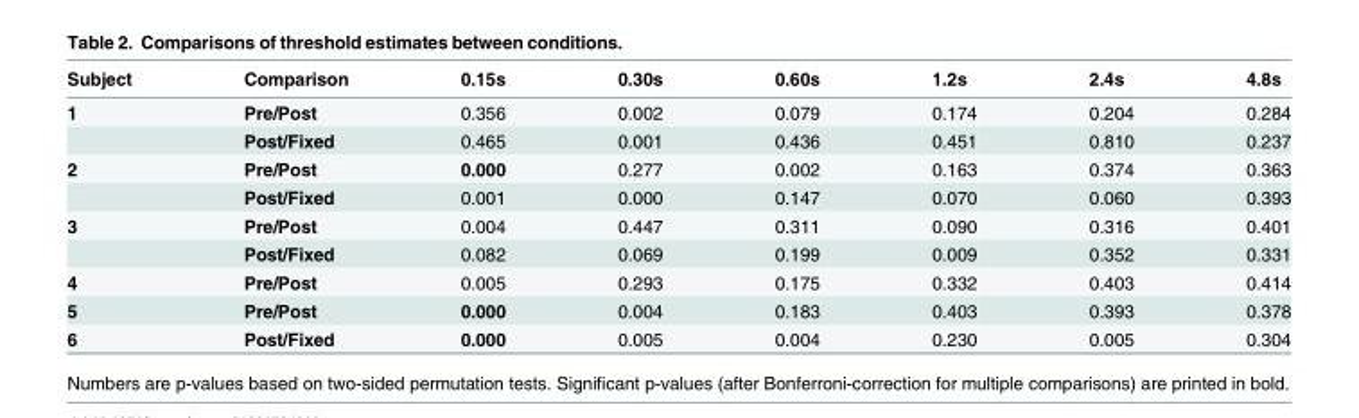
<table><thead><tr><td>Subject</td><td>Comparison</td><td>0.15s</td><td>0.30s</td><td>0.60s</td><td>1.2s</td><td>2.4s</td><td>4.8s</td></tr></thead><tbody><tr><td rowspan="2">1</td><td>Pre/Post</td><td>0.356</td><td>0.002</td><td>0.079</td><td>0.174</td><td>0.204</td><td>0.284</td></tr><tr><td>Post/Fixed</td><td>0.465</td><td>0.001</td><td>0.436</td><td>0.451</td><td>0.810</td><td>0.237</td></tr><tr><td rowspan="2">2</td><td>Pre/Post</td><td>0.000</td><td>0.277</td><td>0.002</td><td>0.163</td><td>0.374</td><td>0.363</td></tr><tr><td>Post/Fixed</td><td>0.001</td><td>0.000</td><td>0.147</td><td>0.070</td><td>0.060</td><td>0.393</td></tr><tr><td rowspan="2">3</td><td>Pre/Post</td><td>0.004</td><td>0.447</td><td>0.311</td><td>0.090</td><td>0.316</td><td>0.401</td></tr><tr><td>Post/Fixed</td><td>0.082</td><td>0.069</td><td>0.199</td><td>0.009</td><td>0.352</td><td>0.331</td></tr><tr><td>4</td><td>Pre/Post</td><td>0.005</td><td>0.293</td><td>0.175</td><td>0.332</td><td>0.403</td><td>0.414</td></tr><tr><td>5</td><td>Pre/Post</td><td>0.000</td><td>0.004</td><td>0.183</td><td>0.403</td><td>0.393</td><td>0.378</td></tr><tr><td>6</td><td>Post/Fixed</td><td>0.000</td><td>0.005</td><td>0.004</td><td>0.230</td><td>0.005</td><td>0.304</td></tr></tbody></table>